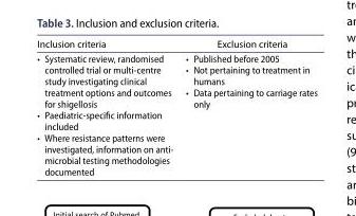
<table><thead><tr><td>Inclusion criteria</td><td>Exclusion criteria</td></tr></thead><tbody><tr><td>• systematic review, randomised controlled trial or multi-centre study investigating clinical treatment options and outcomes for shigellosis • Paediatric-specific information included • Where resistance patterns were investigated, information on anti- microbial testing methodologies documented</td><td>• Published before 2005 • not pertaining to treatment in humans • data pertaining to carriage rates only</td></tr></tbody></table>